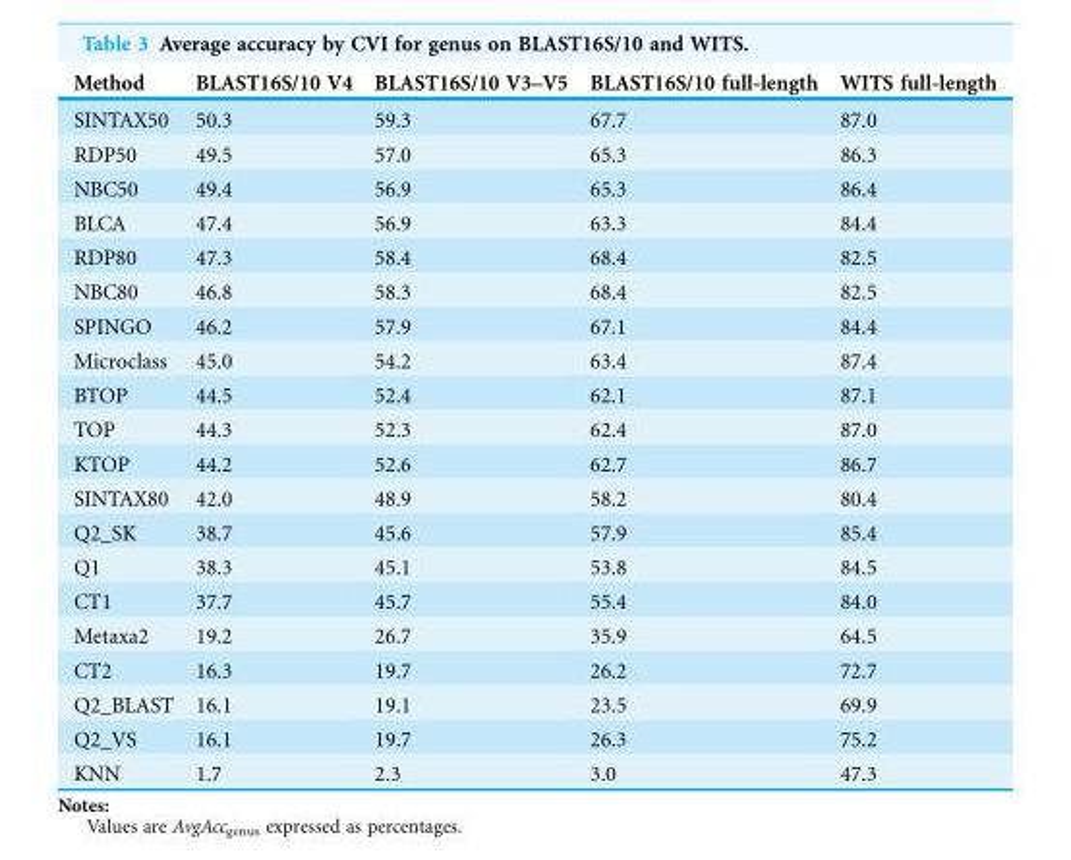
<table><thead><tr><td>Method</td><td>BLAST16S/10 V4</td><td>BLAST16S/10 V3–V5</td><td>BLAST16S/10 full-length</td><td>WITS full-length</td></tr></thead><tbody><tr><td>SINTAX50</td><td>50.3</td><td>59.3</td><td>67.7</td><td>87.0</td></tr><tr><td>RDP50</td><td>49.5</td><td>57.0</td><td>65.3</td><td>86.3</td></tr><tr><td>NBC50</td><td>49.4</td><td>56.9</td><td>65.3</td><td>86.4</td></tr><tr><td>BLCA</td><td>47.4</td><td>56.9</td><td>63.3</td><td>84.4</td></tr><tr><td>RDP80</td><td>47.3</td><td>58.4</td><td>68.4</td><td>82.5</td></tr><tr><td>NBC80</td><td>46.8</td><td>58.3</td><td>68.4</td><td>82.5</td></tr><tr><td>SPINGO</td><td>46.2</td><td>57.9</td><td>67.1</td><td>84.4</td></tr><tr><td>Microclass</td><td>45.0</td><td>54.2</td><td>63.4</td><td>87.4</td></tr><tr><td>BTOP</td><td>44.5</td><td>52.4</td><td>62.1</td><td>87.1</td></tr><tr><td>TOP</td><td>44.3</td><td>52.3</td><td>62.4</td><td>87.0</td></tr><tr><td>KTOP</td><td>44.2</td><td>52.6</td><td>62.7</td><td>86.7</td></tr><tr><td>SINTAX80</td><td>42.0</td><td>48.9</td><td>58.2</td><td>80.4</td></tr><tr><td>Q2_SK</td><td>38.7</td><td>45.6</td><td>57.9</td><td>85.4</td></tr><tr><td>Q1</td><td>38.3</td><td>45.1</td><td>53.8</td><td>84.5</td></tr><tr><td>CT1</td><td>37.7</td><td>45.7</td><td>55.4</td><td>84.0</td></tr><tr><td>Metaxa2</td><td>19.2</td><td>26.7</td><td>35.9</td><td>64.5</td></tr><tr><td>CT2</td><td>16.3</td><td>19.7</td><td>26.2</td><td>72.7</td></tr><tr><td>Q2_BLAST</td><td>16.1</td><td>19.1</td><td>23.5</td><td>69.9</td></tr><tr><td>Q2_VS</td><td>16.1</td><td>19.7</td><td>26.3</td><td>75.2</td></tr><tr><td>KNN</td><td>1.7</td><td>2.3</td><td>3.0</td><td>47.3</td></tr></tbody></table>